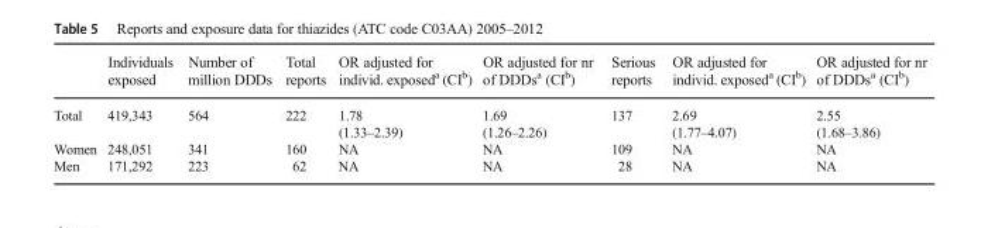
<table><thead><tr><td></td><td>Individuals exposed</td><td>Number of million DDDs</td><td>Total reports</td><td>OR adjusted for individ. exposed<sup>a</sup> (CI<sup>b</sup>)</td><td>OR adjusted for nr of DDDs<sup>a</sup> (CI<sup>b</sup>)</td><td>Serious reports</td><td>OR adjusted for individ. exposed<sup>a</sup> (CI<sup>b</sup>)</td><td>OR adjusted for nr of DDDs<sup>a</sup> (CI<sup>b</sup>)</td></tr></thead><tbody><tr><td>Total</td><td>419,343</td><td>564</td><td>222</td><td>1.78 (1.33–2.39)</td><td>1.69 (1.26–2.26)</td><td>137</td><td>2.69 (1.77–4.07)</td><td>2.55 (1.68–3.86)</td></tr><tr><td>Women</td><td>248,051</td><td>341</td><td>160</td><td>NA</td><td>NA</td><td>109</td><td>NA</td><td>NA</td></tr><tr><td>Men</td><td>171,292</td><td>223</td><td>62</td><td>NA</td><td>NA</td><td>28</td><td>NA</td><td>NA</td></tr></tbody></table>